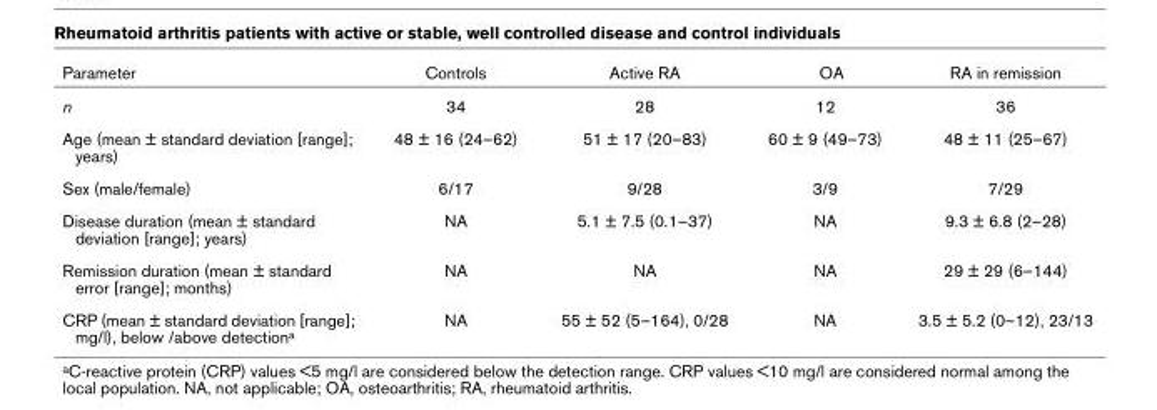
<table><thead><tr><td>Parameter</td><td>Controls</td><td>Active RA</td><td>OA</td><td>RA in remission</td></tr></thead><tbody><tr><td>n</td><td>34</td><td>28</td><td>12</td><td>36</td></tr><tr><td>Age (mean ± standard deviation [range]; years)</td><td>48 ± 16 (24–62)</td><td>51 ± 17 (20–83)</td><td>60 ± 9 (49–73)</td><td>48 ± 11 (25–67)</td></tr><tr><td>Sex (male/female)</td><td>6/17</td><td>9/28</td><td>3/9</td><td>7/29</td></tr><tr><td>Disease duration (mean ± standard deviation [range]; years)</td><td>NA</td><td>5.1 ± 7.5 (0.1–37)</td><td>NA</td><td>9.3 ± 6.8 (2–28)</td></tr><tr><td>Remission duration (mean ± standard error [range]; months)</td><td>NA</td><td>NA</td><td>NA</td><td>29 ± 29 (6–144)</td></tr><tr><td>CRP (mean ± standard deviation [range]; mg/l), below /above detectiona</td><td>NA</td><td>55 ± 52 (5–164), 0/28</td><td>NA</td><td>3.5 ± 5.2 (0–12), 23/13</td></tr></tbody></table>